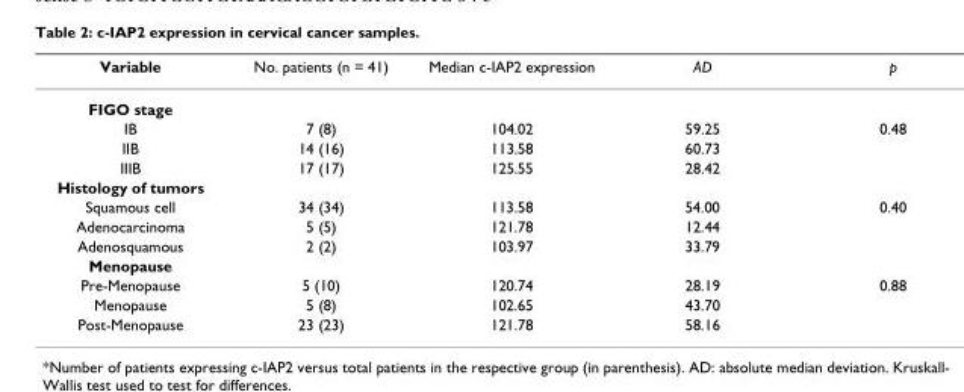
<table><thead><tr><td>Variable</td><td>No. patients (n = 41)</td><td>Median c-IAP2 expression</td><td>AD</td><td>p</td></tr></thead><tbody><tr><td colspan="5">FIGO stage</td></tr><tr><td>IB</td><td>7 (8)</td><td>104.02</td><td>59.25</td><td>0.48</td></tr><tr><td>IIB</td><td>14 (16)</td><td>113.58</td><td>60.73</td><td></td></tr><tr><td>IIIB</td><td>17 (17)</td><td>125.55</td><td>28.42</td><td></td></tr><tr><td colspan="5">Histology of tumors</td></tr><tr><td>Squamous cell</td><td>34 (34)</td><td>113.58</td><td>54.00</td><td>0.40</td></tr><tr><td>Adenocarcinoma</td><td>5 (5)</td><td>121.78</td><td>12.44</td><td></td></tr><tr><td>Adenosquamous</td><td>2 (2)</td><td>103.97</td><td>33.79</td><td></td></tr><tr><td colspan="5">Menopause</td></tr><tr><td>Pre-Menopause</td><td>5 (10)</td><td>120.74</td><td>28.19</td><td>0.88</td></tr><tr><td>Menopause</td><td>5 (8)</td><td>102.65</td><td>43.70</td><td></td></tr><tr><td>Post-Menopause</td><td>23 (23)</td><td>121.78</td><td>58.16</td><td></td></tr></tbody></table>